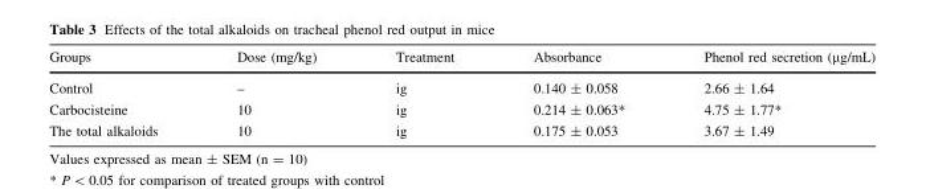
<table><thead><tr><td>Groups</td><td>Dose (mg/kg)</td><td>Treatment</td><td>Absorbance</td><td>Phenol red secretion (μg/mL)</td></tr></thead><tbody><tr><td>Control</td><td>–</td><td>ig</td><td>0.140 ± 0.058</td><td>2.66 ± 1.64</td></tr><tr><td>Carbocisteine</td><td>10</td><td>ig</td><td>0.214 ± 0.063*</td><td>4.75 ± 1.77*</td></tr><tr><td>The total alkaloids</td><td>10</td><td>ig</td><td>0.175 ± 0.053</td><td>3.67 ± 1.49</td></tr></tbody></table>